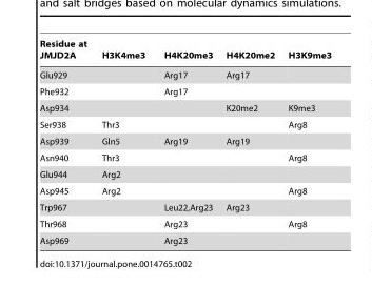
<table><thead><tr><td>Residue at JMJD2A</td><td>H3K4me3</td><td>H4K20me3</td><td>H4K20me2</td><td>H3K9me3</td></tr></thead><tbody><tr><td>Glu929</td><td></td><td>Arg17</td><td>Arg17</td><td></td></tr><tr><td>Phe932</td><td></td><td>Arg17</td><td></td><td></td></tr><tr><td>Asp934</td><td></td><td></td><td>K20me2</td><td>K9me3</td></tr><tr><td>Ser938</td><td>Thr3</td><td></td><td></td><td>Arg8</td></tr><tr><td>Asp939</td><td>Gln5</td><td>Arg19</td><td>Arg19</td><td></td></tr><tr><td>Asn940</td><td>Thr3</td><td></td><td></td><td>Arg8</td></tr><tr><td>Glu944</td><td>Arg2</td><td></td><td></td><td></td></tr><tr><td>Asp945</td><td>Arg2</td><td></td><td></td><td>Arg8</td></tr><tr><td>Trp967</td><td></td><td>Leu22,Arg23</td><td>Arg23</td><td></td></tr><tr><td>Thr968</td><td></td><td>Arg23</td><td></td><td>Arg8</td></tr><tr><td>Asp969</td><td></td><td>Arg23</td><td></td><td></td></tr></tbody></table>